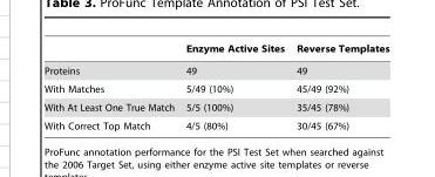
<table><thead><tr><td></td><td>Enzyme Active Sites</td><td>Reverse Templates</td></tr></thead><tbody><tr><td>Proteins</td><td>49</td><td>49</td></tr><tr><td>With Matches</td><td>5/49 (10%)</td><td>45/49 (92%)</td></tr><tr><td>With At Least One True Match</td><td>5/5 (100%)</td><td>35/45 (78%)</td></tr><tr><td>With Correct Top Match</td><td>4/5 (80%)</td><td>30/45 (67%)</td></tr></tbody></table>